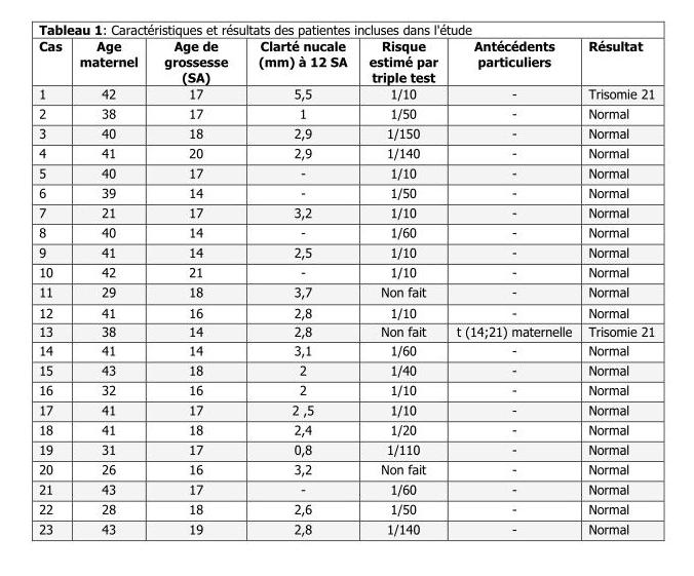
<table><thead><tr><td>Cas</td><td>Age maternel</td><td>Age de grossesse (SA)</td><td>Clarté nucale (mm) à 12 SA</td><td>Risque estimé par triple test</td><td>Antécédents particuliers</td><td>Résultat</td></tr></thead><tbody><tr><td>1</td><td>42</td><td>17</td><td>5,5</td><td>1/10</td><td>-</td><td>Trisomie 21</td></tr><tr><td>2</td><td>38</td><td>17</td><td>1</td><td>1/50</td><td>-</td><td>Normal</td></tr><tr><td>3</td><td>40</td><td>18</td><td>2,9</td><td>1/150</td><td>-</td><td>Normal</td></tr><tr><td>4</td><td>41</td><td>20</td><td>2,9</td><td>1/140</td><td>-</td><td>Normal</td></tr><tr><td>5</td><td>40</td><td>17</td><td>-</td><td>1/10</td><td>-</td><td>Normal</td></tr><tr><td>6</td><td>39</td><td>14</td><td>-</td><td>1/50</td><td>-</td><td>Normal</td></tr><tr><td>7</td><td>21</td><td>17</td><td>3,2</td><td>1/10</td><td>-</td><td>Normal</td></tr><tr><td>8</td><td>40</td><td>14</td><td>-</td><td>1/60</td><td>-</td><td>Normal</td></tr><tr><td>9</td><td>41</td><td>14</td><td>2,5</td><td>1/10</td><td>-</td><td>Normal</td></tr><tr><td>10</td><td>42</td><td>21</td><td>-</td><td>1/10</td><td>-</td><td>Normal</td></tr><tr><td>11</td><td>29</td><td>18</td><td>3,7</td><td>Non fait</td><td>-</td><td>Normal</td></tr><tr><td>12</td><td>41</td><td>16</td><td>2,8</td><td>1/10</td><td>-</td><td>Normal</td></tr><tr><td>13</td><td>38</td><td>14</td><td>2,8</td><td>Non fait</td><td>t (14;21) maternelle</td><td>Trisomie 21</td></tr><tr><td>14</td><td>41</td><td>14</td><td>3,1</td><td>1/60</td><td>-</td><td>Normal</td></tr><tr><td>15</td><td>43</td><td>18</td><td>2</td><td>1/40</td><td>-</td><td>Normal</td></tr><tr><td>16</td><td>32</td><td>16</td><td>2</td><td>1/10</td><td>-</td><td>Normal</td></tr><tr><td>17</td><td>41</td><td>17</td><td>2 ,5</td><td>1/10</td><td>-</td><td>Normal</td></tr><tr><td>18</td><td>41</td><td>18</td><td>2,4</td><td>1/20</td><td>-</td><td>Normal</td></tr><tr><td>19</td><td>31</td><td>17</td><td>0,8</td><td>1/110</td><td>-</td><td>Normal</td></tr><tr><td>20</td><td>26</td><td>16</td><td>3,2</td><td>Non fait</td><td>-</td><td>Normal</td></tr><tr><td>21</td><td>43</td><td>17</td><td>-</td><td>1/60</td><td>-</td><td>Normal</td></tr><tr><td>22</td><td>28</td><td>18</td><td>2,6</td><td>1/50</td><td>-</td><td>Normal</td></tr><tr><td>23</td><td>43</td><td>19</td><td>2,8</td><td>1/140</td><td>-</td><td>Normal</td></tr></tbody></table>